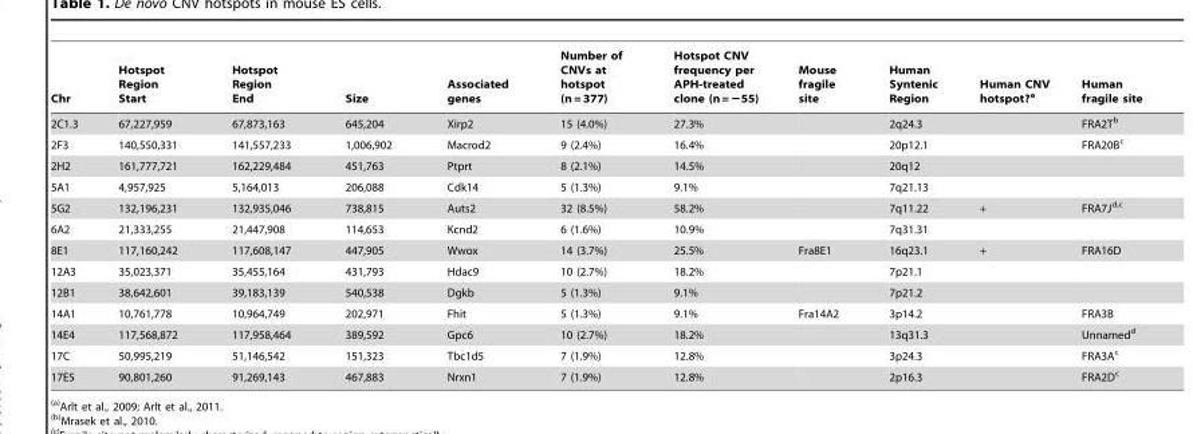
<table><thead><tr><td>Chr</td><td>Hotspot Region Start</td><td>Hotspot Region End</td><td>Size</td><td>Associated genes</td><td>Number of CNVs at hotspot (n = 377)</td><td>Hotspot CNV frequency per APH-treated clone (n = −55)</td><td>Mouse fragile site</td><td>Human Syntenic Region</td><td>Human CNV hotspot?<sup>a</sup></td><td>Human fragile site</td></tr></thead><tbody><tr><td>2C1.3</td><td>67,227,959</td><td>67,873,163</td><td>645,204</td><td>Xirp2</td><td>15 (4.0%)</td><td>27.3%</td><td></td><td>2q24.3</td><td></td><td>FRA2T<sup>b</sup></td></tr><tr><td>2F3</td><td>140,550,331</td><td>141,557,233</td><td>1,006,902</td><td>Macrod2</td><td>9 (2.4%)</td><td>16.4%</td><td></td><td>20p12.1</td><td></td><td>FRA20B<sup>c</sup></td></tr><tr><td>2H2</td><td>161,777,721</td><td>162,229,484</td><td>451,763</td><td>Ptprt</td><td>8 (2.1%)</td><td>14.5%</td><td></td><td>20q12</td><td></td><td></td></tr><tr><td>5A1</td><td>4,957,925</td><td>5,164,013</td><td>206,088</td><td>Cdk14</td><td>5 (1.3%)</td><td>9.1%</td><td></td><td>7q21.13</td><td></td><td></td></tr><tr><td>5G2</td><td>132,196,231</td><td>132,935,046</td><td>738,815</td><td>Auts2</td><td>32 (8.5%)</td><td>58.2%</td><td></td><td>7q11.22</td><td>+</td><td>FRA7J<sup>d,</sup>c</td></tr><tr><td>6A2</td><td>21,333,255</td><td>21,447,908</td><td>114,653</td><td>Kcnd2</td><td>6 (1.6%)</td><td>10.9%</td><td></td><td>7q31.31</td><td></td><td></td></tr><tr><td>8E1</td><td>117,160,242</td><td>117,608,147</td><td>447,905</td><td>Wwox</td><td>14 (3.7%)</td><td>25.5%</td><td>Fra8E1</td><td>16q23.1</td><td>+</td><td>FRA16D</td></tr><tr><td>12A3</td><td>35,023,371</td><td>35,455,164</td><td>431,793</td><td>Hdac9</td><td>10 (2.7%)</td><td>18.2%</td><td></td><td>7p21.1</td><td></td><td></td></tr><tr><td>12B1</td><td>38,642,601</td><td>39,183,139</td><td>540,538</td><td>Dgkb</td><td>5 (1.3%)</td><td>9.1%</td><td></td><td>7p21.2</td><td></td><td></td></tr><tr><td>14A1</td><td>10,761,778</td><td>10,964,749</td><td>202,971</td><td>Fhit</td><td>5 (1.3%)</td><td>9.1%</td><td>Fra14A2</td><td>3p14.2</td><td></td><td>FRA3B</td></tr><tr><td>14E4</td><td>117,568,872</td><td>117,958,464</td><td>389,592</td><td>Gpc6</td><td>10 (2.7%)</td><td>18.2%</td><td></td><td>13q31.3</td><td></td><td>Unnamed<sup>d</sup></td></tr><tr><td>17C</td><td>50,995,219</td><td>51,146,542</td><td>151,323</td><td>Tbc1d5</td><td>7 (1.9%)</td><td>12.8%</td><td></td><td>3p24.3</td><td></td><td>FRA3A<sup>c</sup></td></tr><tr><td>17E5</td><td>90,801,260</td><td>91,269,143</td><td>467,883</td><td>Nrxn1</td><td>7 (1.9%)</td><td>12.8%</td><td></td><td>2p16.3</td><td></td><td>FRA2D<sup>c</sup></td></tr></tbody></table>